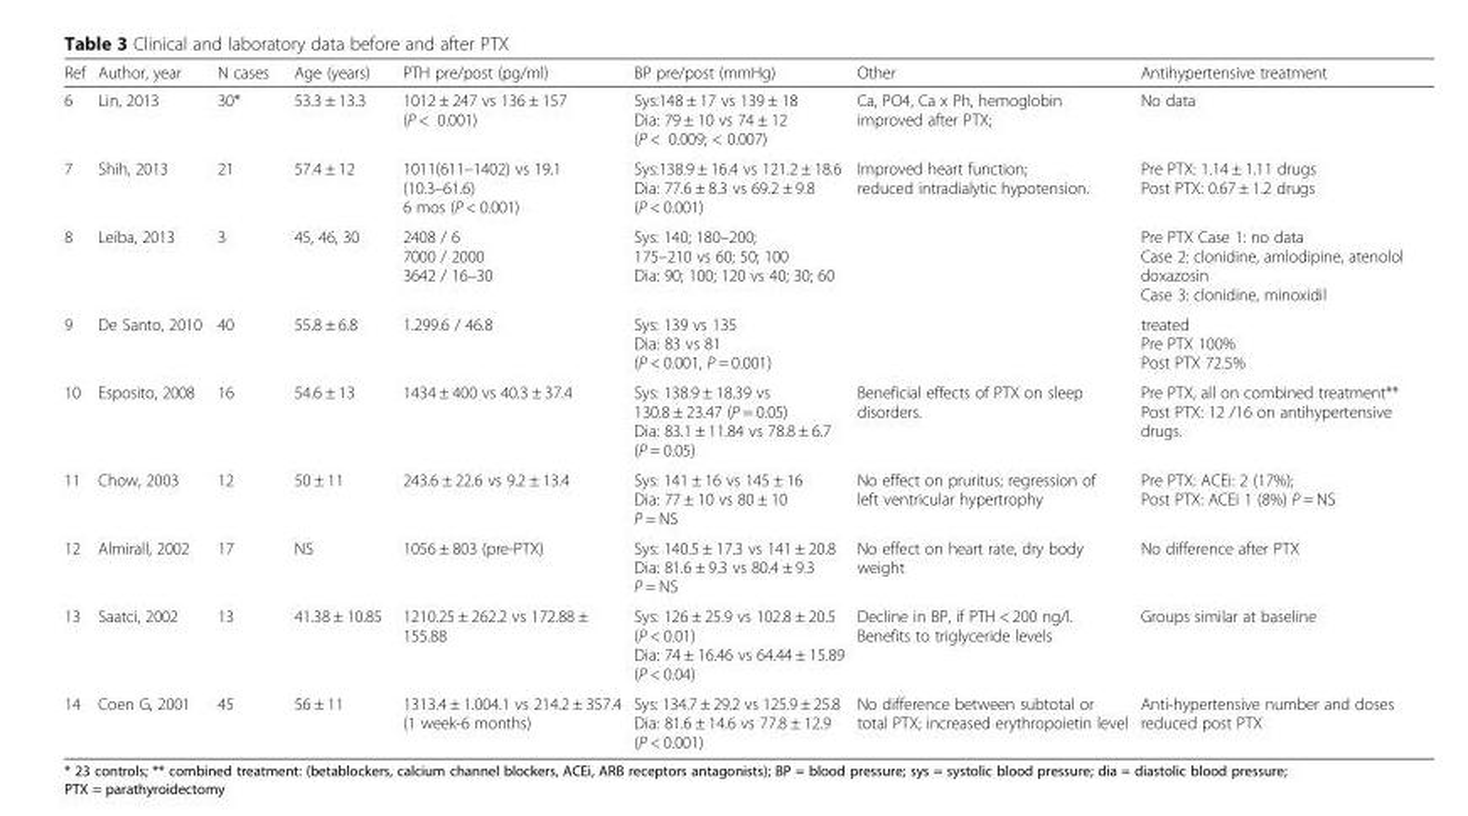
<table><thead><tr><td>Ref</td><td>Author, year</td><td>N cases</td><td>Age (years)</td><td>PTH pre/post (pg/ml)</td><td>BP pre/post (mmHg)</td><td>Other</td><td>Antihypertensive treatment</td></tr></thead><tbody><tr><td>6</td><td>Lin, 2013</td><td>30*</td><td>53.3 ± 13.3</td><td>1012 ± 247 vs 136 ± 157 (P &lt; 0.001)</td><td>Sys:148 ± 17 vs 139 ± 18 Dia: 79 ± 10 vs 74 ± 12 (P &lt; 0.009; &lt; 0.007)</td><td>Ca, PO4, Ca x Ph, hemoglobin improved after PTX;</td><td>No data</td></tr><tr><td>7</td><td>Shih, 2013</td><td>21</td><td>57.4 ± 12</td><td>1011(611–1402) vs 19.1 (10.3–61.6) 6 mos (P &lt; 0.001)</td><td>Sys:138.9 ± 16.4 vs 121.2 ± 18.6 Dia: 77.6 ± 8.3 vs 69.2 ± 9.8 (P &lt; 0.001)</td><td>Improved heart function; reduced intradialytic hypotension.</td><td>Pre PTX: 1.14 ± 1.11 drugs Post PTX: 0.67 ± 1.2 drugs</td></tr><tr><td>8</td><td>Leiba, 2013</td><td>3</td><td>45, 46, 30</td><td>2408 / 6 7000 / 2000 3642 / 16–30</td><td>Sys: 140; 180–200; 175–210 vs 60; 50; 100 Dia: 90; 100; 120 vs 40; 30; 60</td><td></td><td>Pre PTX Case 1: no data Case 2: clonidine, amlodipine, atenolol doxazosin Case 3: clonidine, minoxidil</td></tr><tr><td>9</td><td>De Santo, 2010</td><td>40</td><td>55.8 ± 6.8</td><td>1.299.6 / 46.8</td><td>Sys: 139 vs 135 Dia: 83 vs 81 (P &lt; 0.001, P = 0.001)</td><td></td><td>treated Pre PTX 100% Post PTX 72.5%</td></tr><tr><td>10</td><td>Esposito, 2008</td><td>16</td><td>54.6 ± 13</td><td>1434 ± 400 vs 40.3 ± 37.4</td><td>Sys: 138.9 ± 18.39 vs 130.8 ± 23.47 (P = 0.05) Dia: 83.1 ± 11.84 vs 78.8 ± 6.7 (P = 0.05)</td><td>Beneficial effects of PTX on sleep disorders.</td><td>Pre PTX, all on combined treatment** Post PTX: 12 /16 on antihypertensive drugs.</td></tr><tr><td>11</td><td>Chow, 2003</td><td>12</td><td>50 ± 11</td><td>243.6 ± 22.6 vs 9.2 ± 13.4</td><td>Sys: 141 ± 16 vs 145 ± 16 Dia: 77 ± 10 vs 80 ± 10 P = NS</td><td>No effect on pruritus; regression of left ventricular hypertrophy</td><td>Pre PTX: ACEi: 2 (17%); Post PTX: ACEi 1 (8%) P = NS</td></tr><tr><td>12</td><td>Almirall, 2002</td><td>17</td><td>NS</td><td>1056 ± 803 (pre-PTX)</td><td>Sys: 140.5 ± 17.3 vs 141 ± 20.8 Dia: 81.6 ± 9.3 vs 80.4 ± 9.3 P = NS</td><td>No effect on heart rate, dry body weight</td><td>No difference after PTX</td></tr><tr><td>13</td><td>Saatci, 2002</td><td>13</td><td>41.38 ± 10.85</td><td>1210.25 ± 262.2 vs 172.88 ± 155.88</td><td>Sys: 126 ± 25.9 vs 102.8 ± 20.5 (P &lt; 0.01) Dia: 74 ± 16.46 vs 64.44 ± 15.89 (P &lt; 0.04)</td><td>Decline in BP, if PTH &lt; 200 ng/l. Benefits to triglyceride levels</td><td>Groups similar at baseline</td></tr><tr><td>14</td><td>Coen G, 2001</td><td>45</td><td>56 ± 11</td><td>1313.4 ± 1.004.1 vs 214.2 ± 357.4 (1 week-6 months)</td><td>Sys: 134.7 ± 29.2 vs 125.9 ± 25.8 Dia: 81.6 ± 14.6 vs 77.8 ± 12.9 (P &lt; 0.001)</td><td>No difference between subtotal or total PTX; increased erythropoietin level</td><td>Anti-hypertensive number and doses reduced post PTX</td></tr></tbody></table>